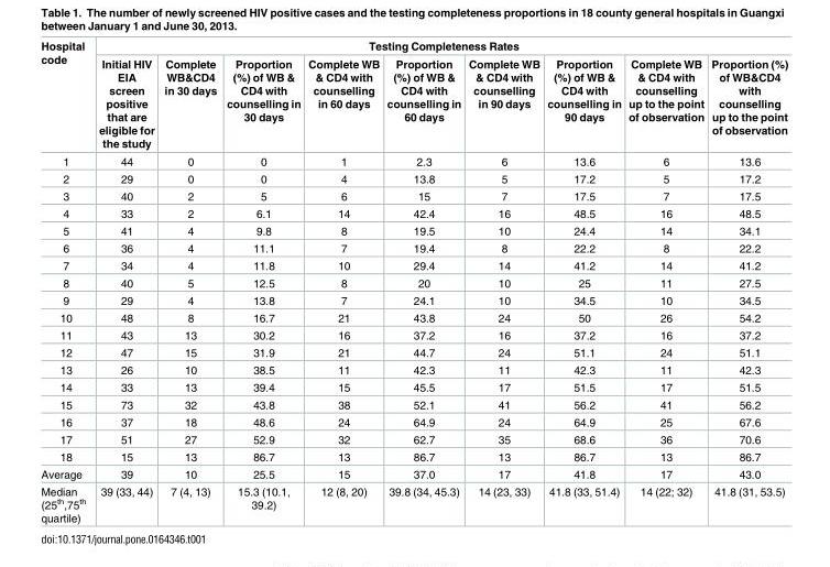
<table><thead><tr><td rowspan="2">Hospital code</td><td colspan="9">Testing Completeness Rates</td></tr><tr><td>Initial HIV EIA screen positive that are eligible for the study</td><td>Complete WB&amp;CD4 in 30 days</td><td>Proportion (%) of WB &amp; CD4 with counselling in 30 days</td><td>Complete WB &amp; CD4 with counselling in 60 days</td><td>Proportion (%) of WB &amp; CD4 with counselling in 60 days</td><td>Complete WB &amp; CD4 with counselling in 90 days</td><td>Proportion (%) of WB &amp; CD4 with counselling in 90 days</td><td>Complete WB &amp; CD4 with counselling up to the point of observation</td><td>Proportion (%) of WB&amp;CD4 with counselling up to the point of observation</td></tr></thead><tbody><tr><td>1</td><td>44</td><td>0</td><td>0</td><td>1</td><td>2.3</td><td>6</td><td>13.6</td><td>6</td><td>13.6</td></tr><tr><td>2</td><td>29</td><td>0</td><td>0</td><td>4</td><td>13.8</td><td>5</td><td>17.2</td><td>5</td><td>17.2</td></tr><tr><td>3</td><td>40</td><td>2</td><td>5</td><td>6</td><td>15</td><td>7</td><td>17.5</td><td>7</td><td>17.5</td></tr><tr><td>4</td><td>33</td><td>2</td><td>6.1</td><td>14</td><td>42.4</td><td>16</td><td>48.5</td><td>16</td><td>48.5</td></tr><tr><td>5</td><td>41</td><td>4</td><td>9.8</td><td>8</td><td>19.5</td><td>10</td><td>24.4</td><td>14</td><td>34.1</td></tr><tr><td>6</td><td>36</td><td>4</td><td>11.1</td><td>7</td><td>19.4</td><td>8</td><td>22.2</td><td>8</td><td>22.2</td></tr><tr><td>7</td><td>34</td><td>4</td><td>11.8</td><td>10</td><td>29.4</td><td>14</td><td>41.2</td><td>14</td><td>41.2</td></tr><tr><td>8</td><td>40</td><td>5</td><td>12.5</td><td>8</td><td>20</td><td>10</td><td>25</td><td>11</td><td>27.5</td></tr><tr><td>9</td><td>29</td><td>4</td><td>13.8</td><td>7</td><td>24.1</td><td>10</td><td>34.5</td><td>10</td><td>34.5</td></tr><tr><td>10</td><td>48</td><td>8</td><td>16.7</td><td>21</td><td>43.8</td><td>24</td><td>50</td><td>26</td><td>54.2</td></tr><tr><td>11</td><td>43</td><td>13</td><td>30.2</td><td>16</td><td>37.2</td><td>16</td><td>37.2</td><td>16</td><td>37.2</td></tr><tr><td>12</td><td>47</td><td>15</td><td>31.9</td><td>21</td><td>44.7</td><td>24</td><td>51.1</td><td>24</td><td>51.1</td></tr><tr><td>13</td><td>26</td><td>10</td><td>38.5</td><td>11</td><td>42.3</td><td>11</td><td>42.3</td><td>11</td><td>42.3</td></tr><tr><td>14</td><td>33</td><td>13</td><td>39.4</td><td>15</td><td>45.5</td><td>17</td><td>51.5</td><td>17</td><td>51.5</td></tr><tr><td>15</td><td>73</td><td>32</td><td>43.8</td><td>38</td><td>52.1</td><td>41</td><td>56.2</td><td>41</td><td>56.2</td></tr><tr><td>16</td><td>37</td><td>18</td><td>48.6</td><td>24</td><td>64.9</td><td>24</td><td>64.9</td><td>25</td><td>67.6</td></tr><tr><td>17</td><td>51</td><td>27</td><td>52.9</td><td>32</td><td>62.7</td><td>35</td><td>68.6</td><td>36</td><td>70.6</td></tr><tr><td>18</td><td>15</td><td>13</td><td>86.7</td><td>13</td><td>86.7</td><td>13</td><td>86.7</td><td>13</td><td>86.7</td></tr><tr><td>Average</td><td>39</td><td>10</td><td>25.5</td><td>15</td><td>37.0</td><td>17</td><td>41.8</td><td>17</td><td>43.0</td></tr><tr><td>Median (25<sup>th</sup>,75<sup>th</sup> quartile)</td><td>39 (33, 44)</td><td>7 (4, 13)</td><td>15.3 (10.1, 39.2)</td><td>12 (8, 20)</td><td>39.8 (34, 45.3)</td><td>14 (23, 33)</td><td>41.8 (33, 51.4)</td><td>14 (22; 32)</td><td>41.8 (31, 53.5)</td></tr></tbody></table>